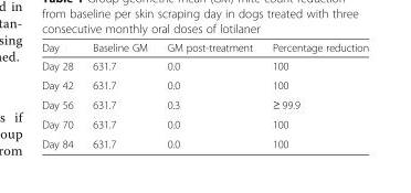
<table><thead><tr><td>Day</td><td>Baseline GM</td><td>GM post-treatment</td><td>Percentage reduction</td></tr></thead><tbody><tr><td>Day 28</td><td>631.7</td><td>0.0</td><td>100</td></tr><tr><td>Day 42</td><td>631.7</td><td>0.0</td><td>100</td></tr><tr><td>Day 56</td><td>631.7</td><td>0.3</td><td>≥ 99.9</td></tr><tr><td>Day 70</td><td>631.7</td><td>0.0</td><td>100</td></tr><tr><td>Day 84</td><td>631.7</td><td>0.0</td><td>100</td></tr></tbody></table>